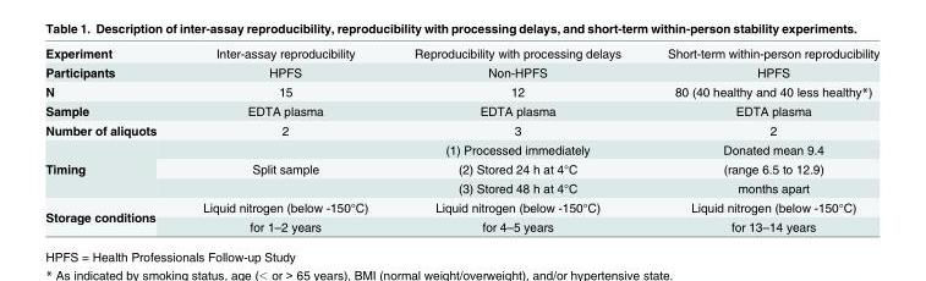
<table><tbody><tr><td>Experiment</td><td>Inter-assay reproducibility</td><td>Reproducibility with processing delays</td><td>Short-term within-person reproducibility</td></tr><tr><td>Participants</td><td>HPFS</td><td>Non-HPFS</td><td>HPFS</td></tr><tr><td>N</td><td>15</td><td>12</td><td>80 (40 healthy and 40 less healthy*)</td></tr><tr><td>Sample</td><td>EDTA plasma</td><td>EDTA plasma</td><td>EDTA plasma</td></tr><tr><td>Number of aliquots</td><td>2</td><td>3</td><td>2</td></tr><tr><td rowspan="3">Timing</td><td></td><td>(1) Processed immediately</td><td>Donated mean 9.4</td></tr><tr><td>Split sample</td><td>(2) Stored 24 h at 4°C</td><td>(range 6.5 to 12.9)</td></tr><tr><td></td><td>(3) Stored 48 h at 4°C</td><td>months apart</td></tr><tr><td rowspan="2">Storage conditions</td><td>Liquid nitrogen (below -150°C)</td><td>Liquid nitrogen (below -150°C)</td><td>Liquid nitrogen (below -150°C)</td></tr><tr><td>for 1–2 years</td><td>for 4–5 years</td><td>for 13–14 years</td></tr></tbody></table>